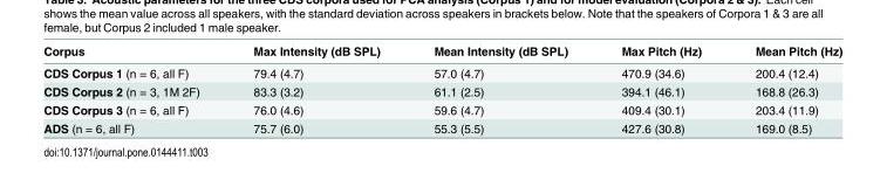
<table><thead><tr><td>Corpus</td><td>Max Intensity (dB SPL)</td><td>Mean Intensity (dB SPL)</td><td>Max Pitch (Hz)</td><td>Mean Pitch (Hz)</td></tr></thead><tbody><tr><td>CDS Corpus 1 (n = 6, all F)</td><td>79.4 (4.7)</td><td>57.0 (4.7)</td><td>470.9 (34.6)</td><td>200.4 (12.4)</td></tr><tr><td>CDS Corpus 2 (n = 3, 1M 2F)</td><td>83.3 (3.2)</td><td>61.1 (2.5)</td><td>394.1 (46.1)</td><td>168.8 (26.3)</td></tr><tr><td>CDS Corpus 3 (n = 6, all F)</td><td>76.0 (4.6)</td><td>59.6 (4.7)</td><td>409.4 (30.1)</td><td>203.4 (11.9)</td></tr><tr><td>ADS (n = 6, all F)</td><td>75.7 (6.0)</td><td>55.3 (5.5)</td><td>427.6 (30.8)</td><td>169.0 (8.5)</td></tr></tbody></table>